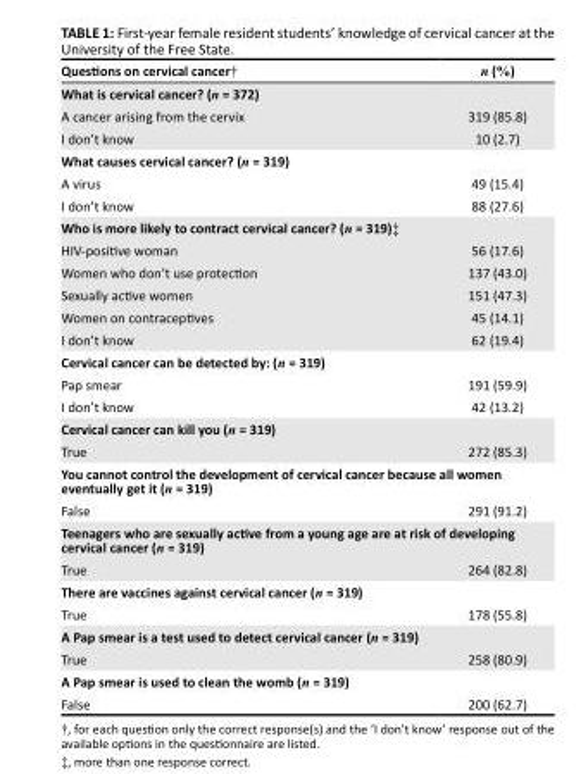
<table><thead><tr><td>Questions on cervical cancer†</td><td>n (%)</td></tr></thead><tbody><tr><td colspan="2">What is cervical cancer? (n = 372)</td></tr><tr><td>A cancer arising from the cervix</td><td>319 (85.8)</td></tr><tr><td>I don’t know</td><td>10 (2.7)</td></tr><tr><td colspan="2">What causes cervical cancer? (n = 319)</td></tr><tr><td>A virus</td><td>49 (15.4)</td></tr><tr><td>I don’t know</td><td>88 (27.6)</td></tr><tr><td colspan="2">Who is more likely to contract cervical cancer? (n = 319)‡</td></tr><tr><td>HIV-positive woman</td><td>56 (17.6)</td></tr><tr><td>Women who don’t use protection</td><td>137 (43.0)</td></tr><tr><td>Sexually active women</td><td>151 (47.3)</td></tr><tr><td>Women on contraceptives</td><td>45 (14.1)</td></tr><tr><td>I don’t know</td><td>62 (19.4)</td></tr><tr><td colspan="2">Cervical cancer can be detected by: (n = 319)</td></tr><tr><td>Pap smear</td><td>191 (59.9)</td></tr><tr><td>I don’t know</td><td>42 (13.2)</td></tr><tr><td colspan="2">Cervical cancer can kill you (n = 319)</td></tr><tr><td>True</td><td>272 (85.3)</td></tr><tr><td colspan="2">You cannot control the development of cervical cancer because all women eventually get it (n = 319)</td></tr><tr><td>False</td><td>291 (91.2)</td></tr><tr><td colspan="2">Teenagers who are sexually active from a young age are at risk of developing cervical cancer (n = 319)</td></tr><tr><td>True</td><td>264 (82.8)</td></tr><tr><td colspan="2">There are vaccines against cervical cancer (n = 319)</td></tr><tr><td>True</td><td>178 (55.8)</td></tr><tr><td colspan="2">A Pap smear is a test used to detect cervical cancer (n = 319)</td></tr><tr><td>True</td><td>258 (80.9)</td></tr><tr><td colspan="2">A Pap smear is used to clean the womb (n = 319)</td></tr><tr><td>False</td><td>200 (62.7)</td></tr></tbody></table>